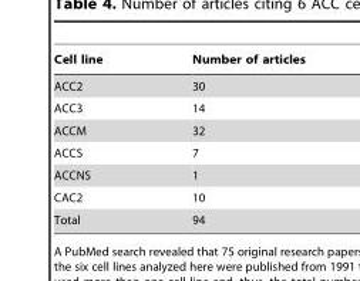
<table><thead><tr><td>Cell line</td><td>Number of articles</td></tr></thead><tbody><tr><td>ACC2</td><td>30</td></tr><tr><td>ACC3</td><td>14</td></tr><tr><td>ACCM</td><td>32</td></tr><tr><td>ACCS</td><td>7</td></tr><tr><td>ACCNS</td><td>1</td></tr><tr><td>CAC2</td><td>10</td></tr><tr><td>Total</td><td>94</td></tr></tbody></table>